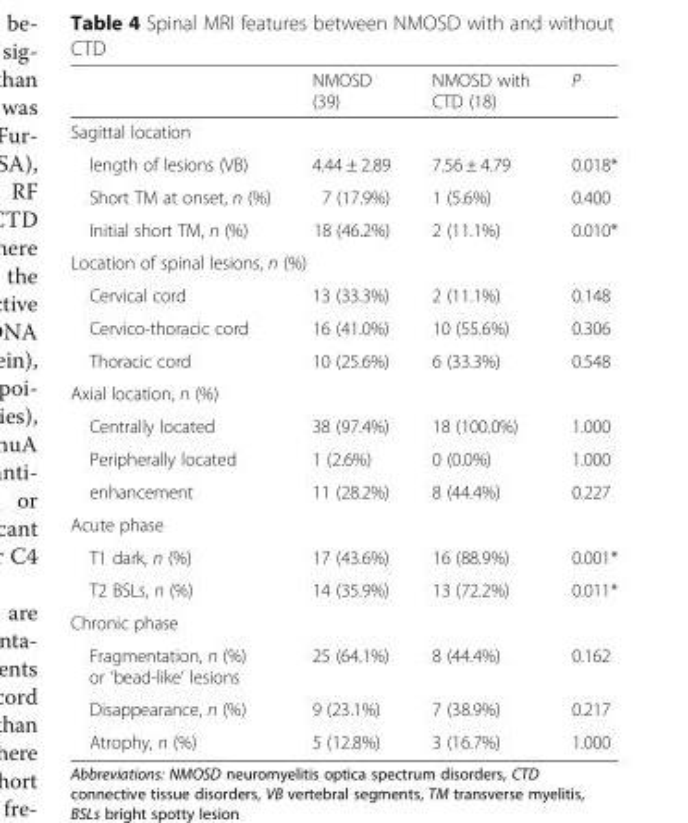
<table><thead><tr><td></td><td>NMOSD (39)</td><td>NMOSD with CTD (18)</td><td>P</td></tr></thead><tbody><tr><td colspan="4">Sagittal location</td></tr><tr><td>length of lesions (VB)</td><td>4.44 ± 2.89</td><td>7.56 ± 4.79</td><td>0.018*</td></tr><tr><td>Short TM at onset, n (%)</td><td>7 (17.9%)</td><td>1 (5.6%)</td><td>0.400</td></tr><tr><td>Initial short TM, n (%)</td><td>18 (46.2%)</td><td>2 (11.1%)</td><td>0.010*</td></tr><tr><td colspan="4">Location of spinal lesions, n (%)</td></tr><tr><td>Cervical cord</td><td>13 (33.3%)</td><td>2 (11.1%)</td><td>0.148</td></tr><tr><td>Cervico-thoracic cord</td><td>16 (41.0%)</td><td>10 (55.6%)</td><td>0.306</td></tr><tr><td>Thoracic cord</td><td>10 (25.6%)</td><td>6 (33.3%)</td><td>0.548</td></tr><tr><td colspan="4">Axial location, n (%)</td></tr><tr><td>Centrally located</td><td>38 (97.4%)</td><td>18 (100.0%)</td><td>1.000</td></tr><tr><td>Peripherally located</td><td>1 (2.6%)</td><td>0 (0.0%)</td><td>1.000</td></tr><tr><td>enhancement</td><td>11 (28.2%)</td><td>8 (44.4%)</td><td>0.227</td></tr><tr><td colspan="4">Acute phase</td></tr><tr><td>T1 dark, n (%)</td><td>17 (43.6%)</td><td>16 (88.9%)</td><td>0.001*</td></tr><tr><td>T2 BSLs, n (%)</td><td>14 (35.9%)</td><td>13 (72.2%)</td><td>0.011*</td></tr><tr><td colspan="4">Chronic phase</td></tr><tr><td>Fragmentation, n (%) or ‘bead-like’ lesions</td><td>25 (64.1%)</td><td>8 (44.4%)</td><td>0.162</td></tr><tr><td>Disappearance, n (%)</td><td>9 (23.1%)</td><td>7 (38.9%)</td><td>0.217</td></tr><tr><td>Atrophy, n (%)</td><td>5 (12.8%)</td><td>3 (16.7%)</td><td>1.000</td></tr></tbody></table>